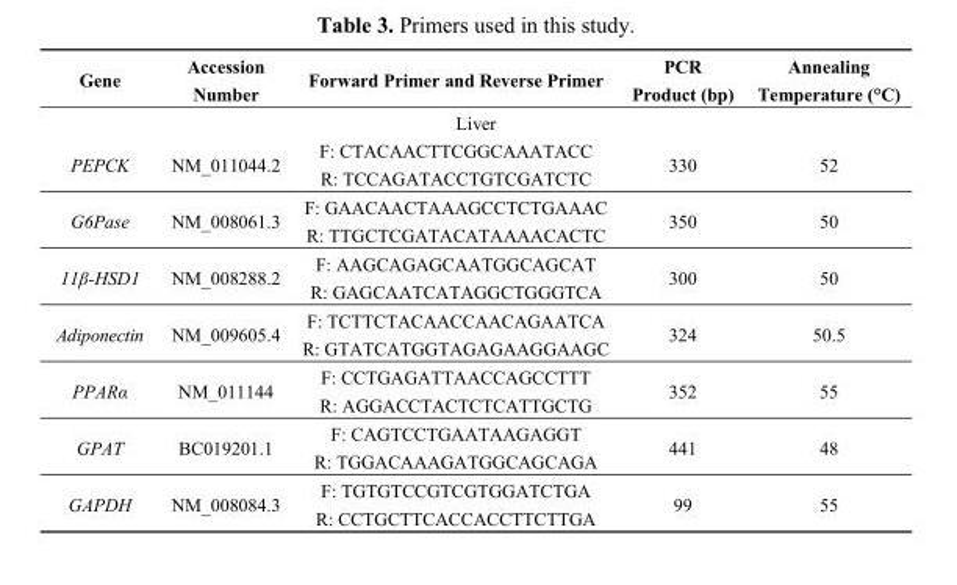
<table><thead><tr><td>Gene</td><td>Accession Number</td><td>Forward Primer and Reverse Primer</td><td>PCR Product (bp)</td><td>Annealing Temperature (°C)</td></tr></thead><tbody><tr><td colspan="5">Liver</td></tr><tr><td rowspan="2">PEPCK</td><td rowspan="2">NM_011044.2</td><td>F: CTACAACTTCGGCAAATACC</td><td rowspan="2">330</td><td rowspan="2">52</td></tr><tr><td>R: TCCAGATACCTGTCGATCTC</td></tr><tr><td rowspan="2">G6Pase</td><td rowspan="2">NM_008061.3</td><td>F: GAACAACTAAAGCCTCTGAAAC</td><td rowspan="2">350</td><td rowspan="2">50</td></tr><tr><td>R: TTGCTCGATACATAAAACACTC</td></tr><tr><td rowspan="2">11β-HSD1</td><td rowspan="2">NM_008288.2</td><td>F: AAGCAGAGCAATGGCAGCAT</td><td rowspan="2">300</td><td rowspan="2">50</td></tr><tr><td>R: GAGCAATCATAGGCTGGGTCA</td></tr><tr><td rowspan="2">Adiponectin</td><td rowspan="2">NM_009605.4</td><td>F: TCTTCTACAACCAACAGAATCA</td><td rowspan="2">324</td><td rowspan="2">50.5</td></tr><tr><td>R: GTATCATGGTAGAGAAGGAAGC</td></tr><tr><td rowspan="2">PPARα</td><td rowspan="2">NM_011144</td><td>F: CCTGAGATTAACCAGCCTTT</td><td rowspan="2">352</td><td rowspan="2">55</td></tr><tr><td>R: AGGACCTACTCTCATTGCTG</td></tr><tr><td rowspan="2">GPAT</td><td rowspan="2">BC019201.1</td><td>F: CAGTCCTGAATAAGAGGT</td><td rowspan="2">441</td><td rowspan="2">48</td></tr><tr><td>R: TGGACAAAGATGGCAGCAGA</td></tr><tr><td rowspan="2">GAPDH</td><td rowspan="2">NM_008084.3</td><td>F: TGTGTCCGTCGTGGATCTGA</td><td rowspan="2">99</td><td rowspan="2">55</td></tr><tr><td>R: CCTGCTTCACCACCTTCTTGA</td></tr></tbody></table>